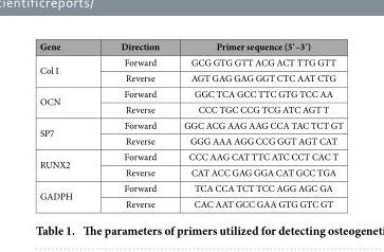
<table><thead><tr><td>Gene</td><td>Direction</td><td>Primer sequence (5′–3′)</td></tr></thead><tbody><tr><td rowspan="2">Col I</td><td>Forward</td><td>GCG GTG GTT ACG ACT TTG GTT</td></tr><tr><td>Reverse</td><td>AGT GAG GAG GGT CTC AAT CTG</td></tr><tr><td rowspan="2">OCN</td><td>Forward</td><td>GGC TCA GCC TTC GTG TCC AA</td></tr><tr><td>Reverse</td><td>CCC TGC CCG TCG ATC AGT T</td></tr><tr><td rowspan="2">SP7</td><td>Forward</td><td>GGC ACG AAG AAG CCA TAC TCT GT</td></tr><tr><td>Reverse</td><td>GGG AAA AGG CCG GGT AGT CAT</td></tr><tr><td rowspan="2">RUNX2</td><td>Forward</td><td>CCC AAG CAT TTC ATC CCT CAC T</td></tr><tr><td>Reverse</td><td>CAT ACC GAG GGA CAT GCC TGA</td></tr><tr><td rowspan="2">GADPH</td><td>Forward</td><td>TCA CCA TCT TCC AGG AGC GA</td></tr><tr><td>Reverse</td><td>CAC AAT GCC GAA GTG GTC GT</td></tr></tbody></table>